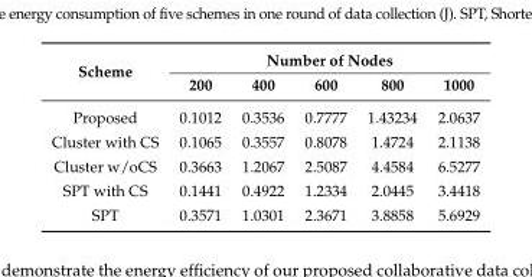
<table><thead><tr><td rowspan="2">Scheme</td><td colspan="5">Number of Nodes</td></tr><tr><td>200</td><td>400</td><td>600</td><td>800</td><td>1000</td></tr></thead><tbody><tr><td>Proposed</td><td>0.1012</td><td>0.3536</td><td>0.7777</td><td>1.43234</td><td>2.0637</td></tr><tr><td>Cluster with CS</td><td>0.1065</td><td>0.3557</td><td>0.8078</td><td>1.4724</td><td>2.1138</td></tr><tr><td>Cluster w/oCS</td><td>0.3663</td><td>1.2067</td><td>2.5087</td><td>4.4584</td><td>6.5277</td></tr><tr><td>SPT with CS</td><td>0.1441</td><td>0.4922</td><td>1.2334</td><td>2.0445</td><td>3.4418</td></tr><tr><td>SPT</td><td>0.3571</td><td>1.0301</td><td>2.3671</td><td>3.8858</td><td>5.6929</td></tr></tbody></table>